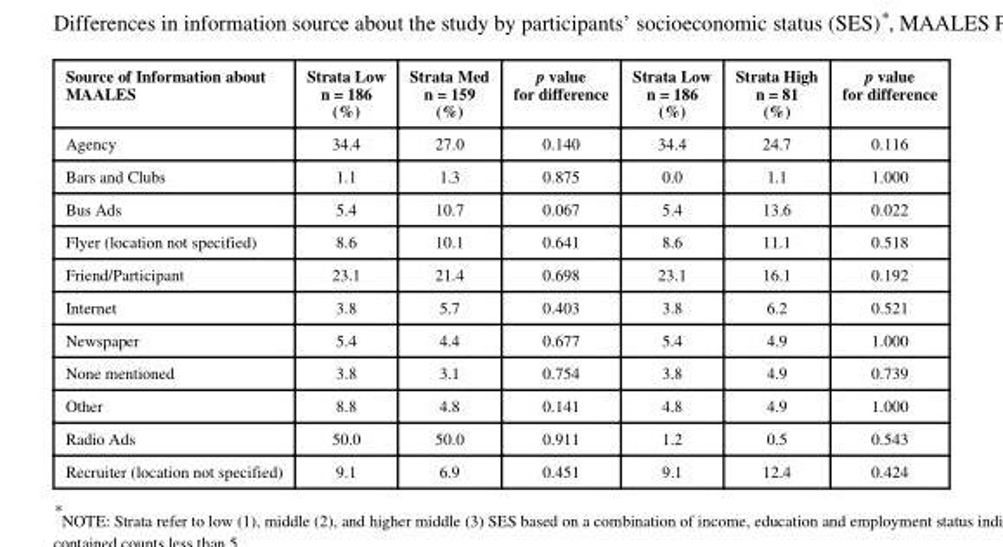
<table><thead><tr><td>Source of Information about MAALES</td><td>Strata Low n = 186 (%)</td><td>Strata Med n = 159 (%)</td><td>p value for difference</td><td>Strata Low n = 186 (%)</td><td>Strata High n = 81 (%)</td><td>p value for difference</td></tr></thead><tbody><tr><td>Agency</td><td>34.4</td><td>27.0</td><td>0.140</td><td>34.4</td><td>24.7</td><td>0.116</td></tr><tr><td>Bars and Clubs</td><td>1.1</td><td>1.3</td><td>0.875</td><td>0.0</td><td>1.1</td><td>1.000</td></tr><tr><td>Bus Ads</td><td>5.4</td><td>10.7</td><td>0.067</td><td>5.4</td><td>13.6</td><td>0.022</td></tr><tr><td>Flyer (location not specified)</td><td>8.6</td><td>10.1</td><td>0.641</td><td>8.6</td><td>11.1</td><td>0.518</td></tr><tr><td>Friend/Participant</td><td>23.1</td><td>21.4</td><td>0.698</td><td>23.1</td><td>16.1</td><td>0.192</td></tr><tr><td>Internet</td><td>3.8</td><td>5.7</td><td>0.403</td><td>3.8</td><td>6.2</td><td>0.521</td></tr><tr><td>Newspaper</td><td>5.4</td><td>4.4</td><td>0.677</td><td>5.4</td><td>4.9</td><td>1.000</td></tr><tr><td>None mentioned</td><td>3.8</td><td>3.1</td><td>0.754</td><td>3.8</td><td>4.9</td><td>0.739</td></tr><tr><td>Other</td><td>8.8</td><td>4.8</td><td>0.141</td><td>4.8</td><td>4.9</td><td>1.000</td></tr><tr><td>Radio Ads</td><td>50.0</td><td>50.0</td><td>0.911</td><td>1.2</td><td>0.5</td><td>0.543</td></tr><tr><td>Recruiter (location not specified)</td><td>9.1</td><td>6.9</td><td>0.451</td><td>9.1</td><td>12.4</td><td>0.424</td></tr></tbody></table>